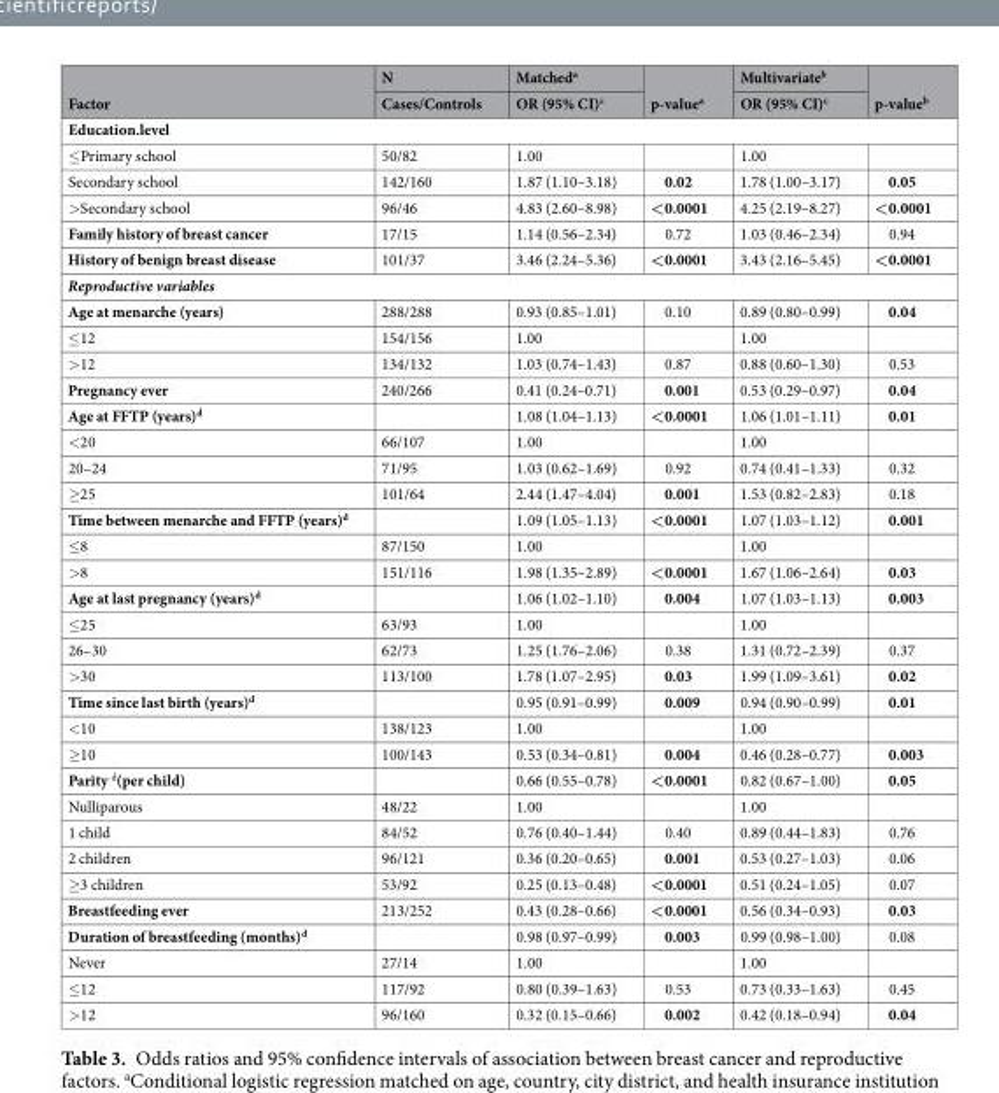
<table><thead><tr><td rowspan="2">Factor</td><td rowspan="2">N Cases/Controls</td><td rowspan="2">Matched<sup>a</sup> OR (95% CI)<sup>c</sup></td><td rowspan="2">p-value<sup>a</sup></td><td rowspan="2">Multivariate<sup>b</sup> OR (95% CI)<sup>c</sup></td><td rowspan="2">p-value<sup>b</sup></td></tr><tr></tr></thead><tbody><tr><td colspan="6">Education.level</td></tr><tr><td>≤Primary school</td><td>50/82</td><td>1.00</td><td></td><td>1.00</td><td></td></tr><tr><td>Secondary school</td><td>142/160</td><td>1.87 (1.10–3.18)</td><td>0.02</td><td>1.78 (1.00–3.17)</td><td>0.05</td></tr><tr><td>&gt;Secondary school</td><td>96/46</td><td>4.83 (2.60–8.98)</td><td>&lt;0.0001</td><td>4.25 (2.19–8.27)</td><td>&lt;0.0001</td></tr><tr><td>Family history of breast cancer</td><td>17/15</td><td>1.14 (0.56–2.34)</td><td>0.72</td><td>1.03 (0.46–2.34)</td><td>0.94</td></tr><tr><td>History of benign breast disease</td><td>101/37</td><td>3.46 (2.24–5.36)</td><td>&lt;0.0001</td><td>3.43 (2.16–5.45)</td><td>&lt;0.0001</td></tr><tr><td colspan="6">Reproductive variables</td></tr><tr><td>Age at menarche (years)</td><td>288/288</td><td>0.93 (0.85–1.01)</td><td>0.10</td><td>0.89 (0.80–0.99)</td><td>0.04</td></tr><tr><td>≤12</td><td>154/156</td><td>1.00</td><td></td><td>1.00</td><td></td></tr><tr><td>&gt;12</td><td>134/132</td><td>1.03 (0.74–1.43)</td><td>0.87</td><td>0.88 (0.60–1.30)</td><td>0.53</td></tr><tr><td>Pregnancy ever</td><td>240/266</td><td>0.41 (0.24–0.71)</td><td>0.001</td><td>0.53 (0.29–0.97)</td><td>0.04</td></tr><tr><td>Age at FFTP (years)<sup>d</sup></td><td></td><td>1.08 (1.04–1.13)</td><td>&lt;0.0001</td><td>1.06 (1.01–1.11)</td><td>0.01</td></tr><tr><td>&lt;20</td><td>66/107</td><td>1.00</td><td></td><td>1.00</td><td></td></tr><tr><td>20–24</td><td>71/95</td><td>1.03 (0.62–1.69)</td><td>0.92</td><td>0.74 (0.41–1.33)</td><td>0.32</td></tr><tr><td>≥25</td><td>101/64</td><td>2.44 (1.47–4.04)</td><td>0.001</td><td>1.53 (0.82–2.83)</td><td>0.18</td></tr><tr><td>Time between menarche and FFTP (years)<sup>d</sup></td><td></td><td>1.09 (1.05–1.13)</td><td>&lt;0.0001</td><td>1.07 (1.03–1.12)</td><td>0.001</td></tr><tr><td>≤8</td><td>87/150</td><td>1.00</td><td></td><td>1.00</td><td></td></tr><tr><td>&gt;8</td><td>151/116</td><td>1.98 (1.35–2.89)</td><td>&lt;0.0001</td><td>1.67 (1.06–2.64)</td><td>0.03</td></tr><tr><td>Age at last pregnancy (years)<sup>d</sup></td><td></td><td>1.06 (1.02–1.10)</td><td>0.004</td><td>1.07 (1.03–1.13)</td><td>0.003</td></tr><tr><td>≤25</td><td>63/93</td><td>1.00</td><td></td><td>1.00</td><td></td></tr><tr><td>26–30</td><td>62/73</td><td>1.25 (1.76–2.06)</td><td>0.38</td><td>1.31 (0.72–2.39)</td><td>0.37</td></tr><tr><td>&gt;30</td><td>113/100</td><td>1.78 (1.07–2.95)</td><td>0.03</td><td>1.99 (1.09–3.61)</td><td>0.02</td></tr><tr><td>Time since last birth (years)<sup>d</sup></td><td></td><td>0.95 (0.91–0.99)</td><td>0.009</td><td>0.94 (0.90–0.99)</td><td>0.01</td></tr><tr><td>&lt;10</td><td>138/123</td><td>1.00</td><td></td><td>1.00</td><td></td></tr><tr><td>≥10</td><td>100/143</td><td>0.53 (0.34–0.81)</td><td>0.004</td><td>0.46 (0.28–0.77)</td><td>0.003</td></tr><tr><td>Parity <sup>d</sup>(per child)</td><td></td><td>0.66 (0.55–0.78)</td><td>&lt;0.0001</td><td>0.82 (0.67–1.00)</td><td>0.05</td></tr><tr><td>Nulliparous</td><td>48/22</td><td>1.00</td><td></td><td>1.00</td><td></td></tr><tr><td>1 child</td><td>84/52</td><td>0.76 (0.40–1.44)</td><td>0.40</td><td>0.89 (0.44–1.83)</td><td>0.76</td></tr><tr><td>2 children</td><td>96/121</td><td>0.36 (0.20–0.65)</td><td>0.001</td><td>0.53 (0.27–1.03)</td><td>0.06</td></tr><tr><td>≥3 children</td><td>53/92</td><td>0.25 (0.13–0.48)</td><td>&lt;0.0001</td><td>0.51 (0.24–1.05)</td><td>0.07</td></tr><tr><td>Breastfeeding ever</td><td>213/252</td><td>0.43 (0.28–0.66)</td><td>&lt;0.0001</td><td>0.56 (0.34–0.93)</td><td>0.03</td></tr><tr><td>Duration of breastfeeding (months)<sup>d</sup></td><td></td><td>0.98 (0.97–0.99)</td><td>0.003</td><td>0.99 (0.98–1.00)</td><td>0.08</td></tr><tr><td>Never</td><td>27/14</td><td>1.00</td><td></td><td>1.00</td><td></td></tr><tr><td>≤12</td><td>117/92</td><td>0.80 (0.39–1.63)</td><td>0.53</td><td>0.73 (0.33–1.63)</td><td>0.45</td></tr><tr><td>&gt;12</td><td>96/160</td><td>0.32 (0.15–0.66)</td><td>0.002</td><td>0.42 (0.18–0.94)</td><td>0.04</td></tr></tbody></table>